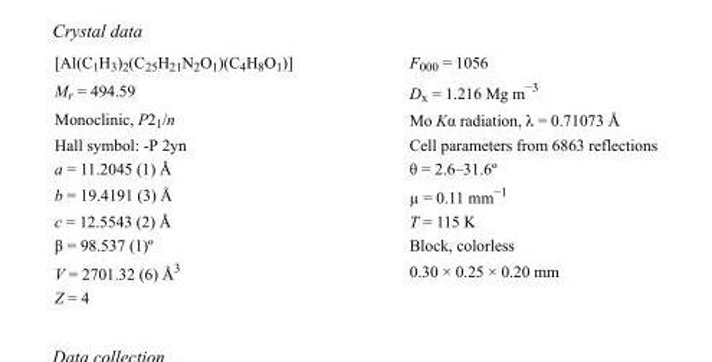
<table><tbody><tr><td>[Al(C1H3)2(C25H21N2O1)(C4H8O1)]</td><td>F000 = 1056</td></tr><tr><td>M<sub>r</sub> = 494.59</td><td>D<sub>x</sub> = 1.216 Mg m<sup>−3</sup></td></tr><tr><td>Monoclinic, P2<sub>1</sub>/n</td><td>Mo Kα radiation, λ = 0.71073 Å</td></tr><tr><td>Hall symbol: -P 2yn</td><td>Cell parameters from 6863 reflections</td></tr><tr><td>a = 11.2045 (1) Å</td><td>θ = 2.6–31.6º</td></tr><tr><td>b = 19.4191 (3) Å</td><td>µ = 0.11 mm<sup>−1</sup></td></tr><tr><td>c = 12.5543 (2) Å</td><td>T = 115 K</td></tr><tr><td>β = 98.537 (1)º</td><td>Block, colorless</td></tr><tr><td>V = 2701.32 (6) Å<sup>3</sup></td><td>0.30 × 0.25 × 0.20 mm</td></tr><tr><td>Z = 4</td><td></td></tr></tbody></table>